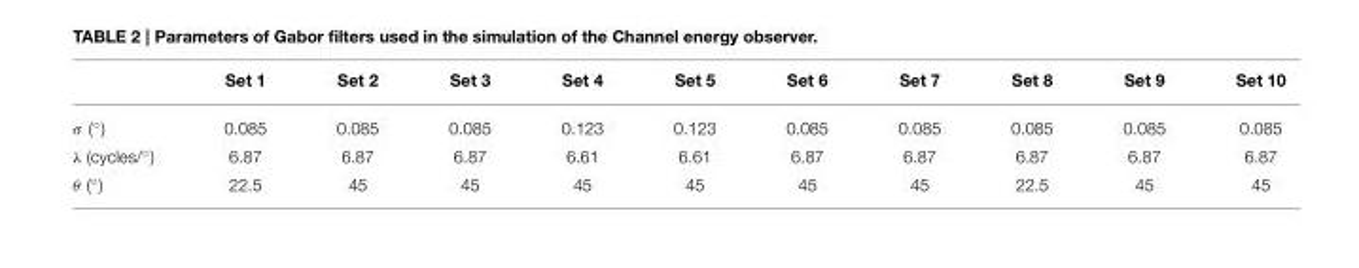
<table><thead><tr><td></td><td>Set 1</td><td>Set 2</td><td>Set 3</td><td>Set 4</td><td>Set 5</td><td>Set 6</td><td>Set 7</td><td>Set 8</td><td>Set 9</td><td>Set 10</td></tr></thead><tbody><tr><td>σ (◦)</td><td>0.085</td><td>0.085</td><td>0.085</td><td>0.123</td><td>0.123</td><td>0.085</td><td>0.085</td><td>0.085</td><td>0.085</td><td>0.085</td></tr><tr><td>λ (cycles/◦)</td><td>6.87</td><td>6.87</td><td>6.87</td><td>6.61</td><td>6.61</td><td>6.87</td><td>6.87</td><td>6.87</td><td>6.87</td><td>6.87</td></tr><tr><td>θ (◦)</td><td>22.5</td><td>45</td><td>45</td><td>45</td><td>45</td><td>45</td><td>45</td><td>22.5</td><td>45</td><td>45</td></tr></tbody></table>